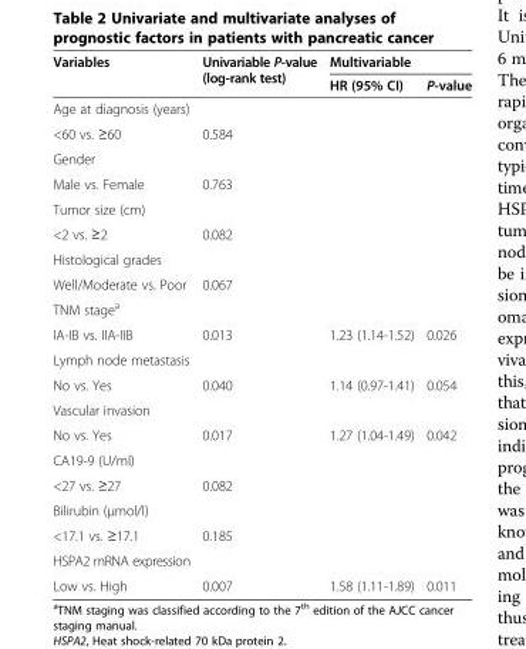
<table><thead><tr><td rowspan="2">Variables</td><td rowspan="2">Univariable P-value (log-rank test)</td><td colspan="2">Multivariable</td></tr><tr><td>HR (95% CI)</td><td>P-value</td></tr></thead><tbody><tr><td colspan="4">Age at diagnosis (years)</td></tr><tr><td>&lt;60 vs. ≥60</td><td>0.584</td><td></td><td></td></tr><tr><td colspan="4">Gender</td></tr><tr><td>Male vs. Female</td><td>0.763</td><td></td><td></td></tr><tr><td colspan="4">Tumor size (cm)</td></tr><tr><td>&lt;2 vs. ≥2</td><td>0.082</td><td></td><td></td></tr><tr><td colspan="4">Histological grades</td></tr><tr><td>Well/Moderate vs. Poor</td><td>0.067</td><td></td><td></td></tr><tr><td colspan="4">TNM stage<sup>a</sup></td></tr><tr><td>IA-IB vs. IIA-IIB</td><td>0.013</td><td>1.23 (1.14-1.52)</td><td>0.026</td></tr><tr><td colspan="4">Lymph node metastasis</td></tr><tr><td>No vs. Yes</td><td>0.040</td><td>1.14 (0.97-1.41)</td><td>0.054</td></tr><tr><td colspan="4">Vascular invasion</td></tr><tr><td>No vs. Yes</td><td>0.017</td><td>1.27 (1.04-1.49)</td><td>0.042</td></tr><tr><td colspan="4">CA19-9 (U/ml)</td></tr><tr><td>&lt;27 vs. ≥27</td><td>0.082</td><td></td><td></td></tr><tr><td colspan="4">Bilirubin (μmol/l)</td></tr><tr><td>&lt;17.1 vs. ≥17.1</td><td>0.185</td><td></td><td></td></tr><tr><td colspan="4">HSPA2 mRNA expression</td></tr><tr><td>Low vs. High</td><td>0.007</td><td>1.58 (1.11-1.89)</td><td>0.011</td></tr></tbody></table>